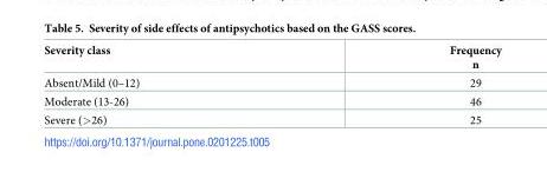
<table><thead><tr><td>Severity class</td><td>Frequency n</td></tr></thead><tbody><tr><td>Absent/Mild (0–12)</td><td>29</td></tr><tr><td>Moderate (13-26)</td><td>46</td></tr><tr><td>Severe (&gt;26)</td><td>25</td></tr></tbody></table>